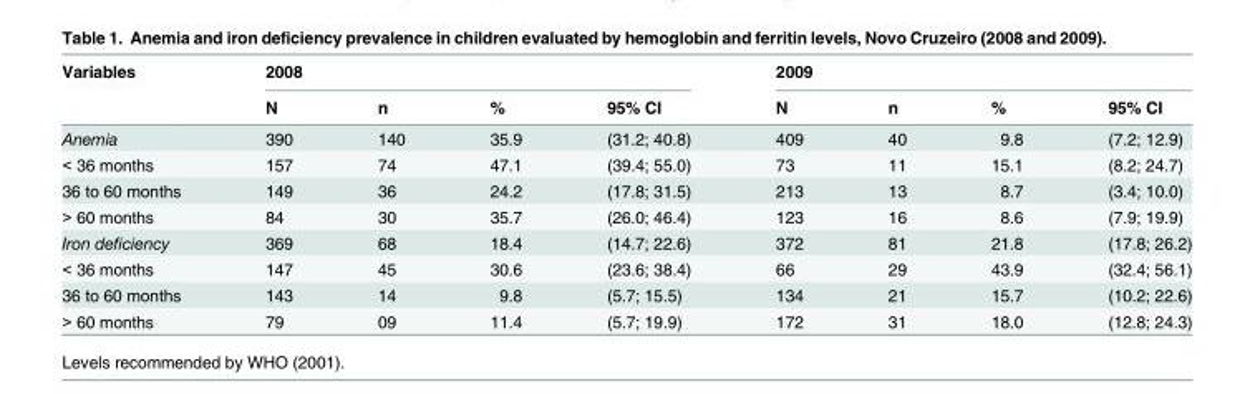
<table><thead><tr><td rowspan="2">Variables</td><td colspan="4">2008</td><td colspan="4">2009</td></tr><tr><td>N</td><td>n</td><td>%</td><td>95% CI</td><td>N</td><td>n</td><td>%</td><td>95% CI</td></tr></thead><tbody><tr><td>Anemia</td><td>390</td><td>140</td><td>35.9</td><td>(31.2; 40.8)</td><td>409</td><td>40</td><td>9.8</td><td>(7.2; 12.9)</td></tr><tr><td>&lt; 36 months</td><td>157</td><td>74</td><td>47.1</td><td>(39.4; 55.0)</td><td>73</td><td>11</td><td>15.1</td><td>(8.2; 24.7)</td></tr><tr><td>36 to 60 months</td><td>149</td><td>36</td><td>24.2</td><td>(17.8; 31.5)</td><td>213</td><td>13</td><td>8.7</td><td>(3.4; 10.0)</td></tr><tr><td>&gt; 60 months</td><td>84</td><td>30</td><td>35.7</td><td>(26.0; 46.4)</td><td>123</td><td>16</td><td>8.6</td><td>(7.9; 19.9)</td></tr><tr><td>Iron deficiency</td><td>369</td><td>68</td><td>18.4</td><td>(14.7; 22.6)</td><td>372</td><td>81</td><td>21.8</td><td>(17.8; 26.2)</td></tr><tr><td>&lt; 36 months</td><td>147</td><td>45</td><td>30.6</td><td>(23.6; 38.4)</td><td>66</td><td>29</td><td>43.9</td><td>(32.4; 56.1)</td></tr><tr><td>36 to 60 months</td><td>143</td><td>14</td><td>9.8</td><td>(5.7; 15.5)</td><td>134</td><td>21</td><td>15.7</td><td>(10.2; 22.6)</td></tr><tr><td>&gt; 60 months</td><td>79</td><td>09</td><td>11.4</td><td>(5.7; 19.9)</td><td>172</td><td>31</td><td>18.0</td><td>(12.8; 24.3)</td></tr></tbody></table>